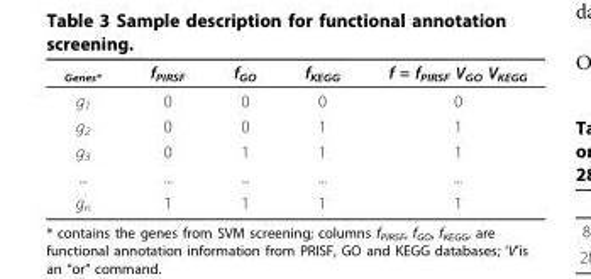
<table><thead><tr><td><sub>Genes*</sub></td><td>f<sub>PIRSF</sub></td><td>f<sub>GO</sub></td><td>f<sub>KEGG</sub></td><td>f = f<sub>PIRSF</sub> V<sub>GO</sub> V<sub>KEGG</sub></td></tr></thead><tbody><tr><td>g<sub>1</sub></td><td>0</td><td>0</td><td>0</td><td>0</td></tr><tr><td>g<sub>2</sub></td><td>0</td><td>0</td><td>1</td><td>1</td></tr><tr><td>g<sub>3</sub></td><td>0</td><td>1</td><td>1</td><td>1</td></tr><tr><td>...</td><td>...</td><td>...</td><td>...</td><td>...</td></tr><tr><td>g<sub>n</sub></td><td>1</td><td>1</td><td>1</td><td>1</td></tr></tbody></table>